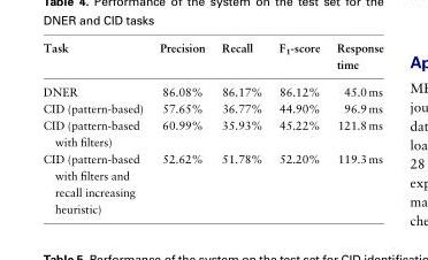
<table><thead><tr><td>Task</td><td>Precision</td><td>Recall</td><td>F<sub>1</sub>-score</td><td>Response time</td></tr></thead><tbody><tr><td>DNER</td><td>86.08%</td><td>86.17%</td><td>86.12%</td><td>45.0 ms</td></tr><tr><td>CID (pattern-based)</td><td>57.65%</td><td>36.77%</td><td>44.90%</td><td>96.9 ms</td></tr><tr><td>CID (pattern-based with filters)</td><td>60.99%</td><td>35.93%</td><td>45.22%</td><td>121.8 ms</td></tr><tr><td>CID (pattern-based with filters and recall increasing heuristic)</td><td>52.62%</td><td>51.78%</td><td>52.20%</td><td>119.3 ms</td></tr></tbody></table>